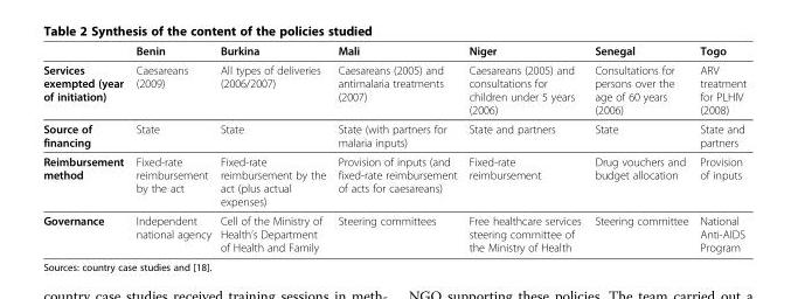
<table><thead><tr><td></td><td>Benin</td><td>Burkina</td><td>Mali</td><td>Niger</td><td>Senegal</td><td>Togo</td></tr></thead><tbody><tr><td>Services exempted (year of initiation)</td><td>Caesareans (2009)</td><td>All types of deliveries (2006/2007)</td><td>Caesareans (2005) and antimalaria treatments (2007)</td><td>Caesareans (2005) and consultations for children under 5 years (2006)</td><td>Consultations for persons over the age of 60 years (2006)</td><td>ARV treatment for PLHIV (2008)</td></tr><tr><td>Source of financing</td><td>State</td><td>State</td><td>State (with partners for malaria inputs)</td><td>State and partners</td><td>State</td><td>State and partners</td></tr><tr><td>Reimbursement method</td><td>Fixed-rate reimbursement by the act</td><td>Fixed-rate reimbursement by the act (plus actual expenses)</td><td>Provision of inputs (and fixed-rate reimbursement of acts for caesareans)</td><td>Fixed-rate reimbursement</td><td>Drug vouchers and budget allocation</td><td>Provision of inputs</td></tr><tr><td>Governance</td><td>Independent national agency</td><td>Cell of the Ministry of Health’s Department of Health and Family</td><td>Steering committees</td><td>Free healthcare services steering committee of the Ministry of Health</td><td>Steering committee</td><td>National Anti-AIDS Program</td></tr></tbody></table>